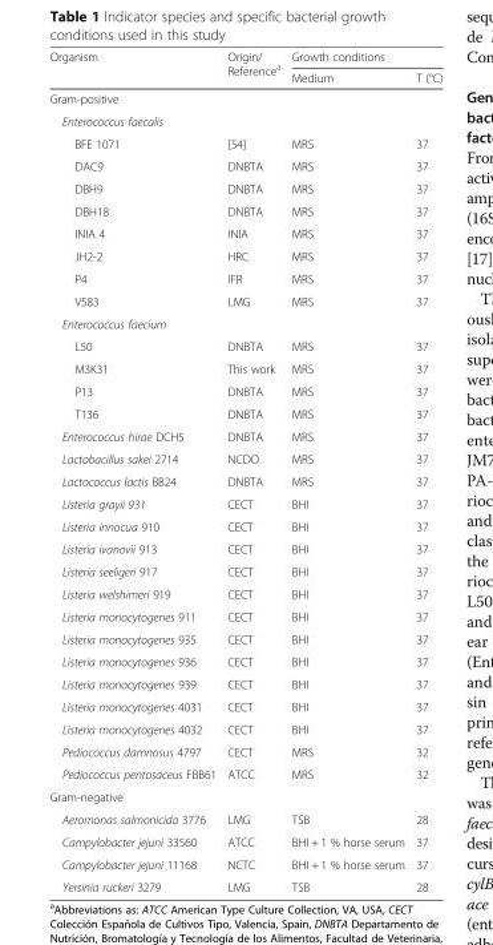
<table><thead><tr><td rowspan="2">Organism</td><td rowspan="2">Origin/ Reference<sup>a</sup></td><td colspan="2">Growth conditions</td></tr><tr><td>Medium</td><td>T (°C)</td></tr></thead><tbody><tr><td colspan="4">Gram-positive</td></tr><tr><td colspan="4">Enterococcus faecalis</td></tr><tr><td>BFE 1071</td><td>[54]</td><td>MRS</td><td>37</td></tr><tr><td>DAC9</td><td>DNBTA</td><td>MRS</td><td>37</td></tr><tr><td>DBH9</td><td>DNBTA</td><td>MRS</td><td>37</td></tr><tr><td>DBH18</td><td>DNBTA</td><td>MRS</td><td>37</td></tr><tr><td>INIA 4</td><td>INIA</td><td>MRS</td><td>37</td></tr><tr><td>JH2-2</td><td>HRC</td><td>MRS</td><td>37</td></tr><tr><td>P4</td><td>IFR</td><td>MRS</td><td>37</td></tr><tr><td>V583</td><td>LMG</td><td>MRS</td><td>37</td></tr><tr><td colspan="4">Enterococcus faecium</td></tr><tr><td>L50</td><td>DNBTA</td><td>MRS</td><td>37</td></tr><tr><td>M3K31</td><td>This work</td><td>MRS</td><td>37</td></tr><tr><td>P13</td><td>DNBTA</td><td>MRS</td><td>37</td></tr><tr><td>T136</td><td>DNBTA</td><td>MRS</td><td>37</td></tr><tr><td>Enterococcus hirae DCH5</td><td>DNBTA</td><td>MRS</td><td>37</td></tr><tr><td>Lactobacillus sakei 2714</td><td>NCDO</td><td>MRS</td><td>37</td></tr><tr><td>Lactococcus lactis BB24</td><td>DNBTA</td><td>MRS</td><td>37</td></tr><tr><td>Listeria grayii 931</td><td>CECT</td><td>BHI</td><td>37</td></tr><tr><td>Listeria innocua 910</td><td>CECT</td><td>BHI</td><td>37</td></tr><tr><td>Listeria ivanovii 913</td><td>CECT</td><td>BHI</td><td>37</td></tr><tr><td>Listeria seeligeri 917</td><td>CECT</td><td>BHI</td><td>37</td></tr><tr><td>Listeria welshimeri 919</td><td>CECT</td><td>BHI</td><td>37</td></tr><tr><td>Listeria monocytogenes 911</td><td>CECT</td><td>BHI</td><td>37</td></tr><tr><td>Listeria monocytogenes 935</td><td>CECT</td><td>BHI</td><td>37</td></tr><tr><td>Listeria monocytogenes 936</td><td>CECT</td><td>BHI</td><td>37</td></tr><tr><td>Listeria monocytogenes 939</td><td>CECT</td><td>BHI</td><td>37</td></tr><tr><td>Listeria monocytogenes 4031</td><td>CECT</td><td>BHI</td><td>37</td></tr><tr><td>Listeria monocytogenes 4032</td><td>CECT</td><td>BHI</td><td>37</td></tr><tr><td>Pediococcus damnosus 4797</td><td>CECT</td><td>MRS</td><td>32</td></tr><tr><td>Pediococcus pentosaceus FBB61</td><td>ATCC</td><td>MRS</td><td>32</td></tr><tr><td colspan="4">Gram-negative</td></tr><tr><td>Aeromonas salmonicida 3776</td><td>LMG</td><td>TSB</td><td>28</td></tr><tr><td>Campylobacter jejuni 33560</td><td>ATCC</td><td>BHI + 1 % horse serum</td><td>37</td></tr><tr><td>Campylobacter jejuni 11168</td><td>NCTC</td><td>BHI + 1 % horse serum</td><td>37</td></tr><tr><td>Yersinia ruckeri 3279</td><td>LMG</td><td>TSB</td><td>28</td></tr></tbody></table>